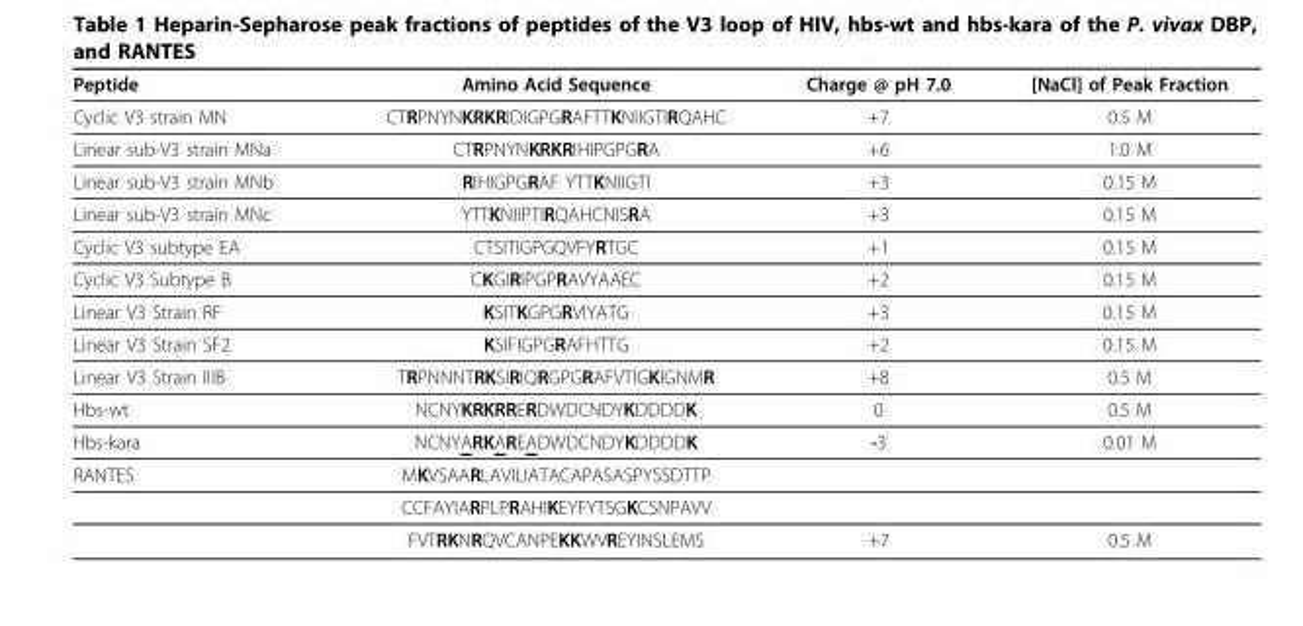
<table><thead><tr><td>Peptide</td><td>Amino Acid Sequence</td><td>Charge @ pH 7.0</td><td>[NaCl] of Peak Fraction</td></tr></thead><tbody><tr><td>Cyclic V3 strain MN</td><td>CTRPNYNKRKRIDIGPGRAFTTKNIIGTIRQAHC</td><td>+7</td><td>0.5 M</td></tr><tr><td>Linear sub-V3 strain MNa</td><td>CTRPNYNKRKRIHIPGPGRA</td><td>+6</td><td>1.0 M</td></tr><tr><td>Linear sub-V3 strain MNb</td><td>RIHIGPGRAF YTTKNIIGTI</td><td>+3</td><td>0.15 M</td></tr><tr><td>Linear sub-V3 strain MNc</td><td>YTTKNIIPTIRQAHCNISRA</td><td>+3</td><td>0.15 M</td></tr><tr><td>Cyclic V3 subtype EA</td><td>CTSITIGPGQVFYRTGC</td><td>+1</td><td>0.15 M</td></tr><tr><td>Cyclic V3 Subtype B</td><td>CKGIRIPGPRAVYAAEC</td><td>+2</td><td>0.15 M</td></tr><tr><td>Linear V3 Strain RF</td><td>KSITKGPGRVIYATG</td><td>+3</td><td>0.15 M</td></tr><tr><td>Linear V3 Strain SF2</td><td>KSIFIGPGRAFHTTG</td><td>+2</td><td>0.15 M</td></tr><tr><td>Linear V3 Strain IIIB</td><td>TRPNNNTRKSIRIQRGPGRAFVTIGKIGNMR</td><td>+8</td><td>0.5 M</td></tr><tr><td>Hbs-wt</td><td>NCNYKRKRRERDWDCNDYKDDDDK</td><td>0</td><td>0.5 M</td></tr><tr><td>Hbs-kara</td><td>NCNYARKAREADWDCNDYKDDDDK</td><td>-3</td><td>0.01 M</td></tr><tr><td rowspan="3">RANTES</td><td>MKVSAARLAVILIATACAPASASPYSSDTTP</td><td></td><td></td></tr><tr><td>CCFAYIARPLPRAHIKEYFYTSGKCSNPAVV</td><td></td><td></td></tr><tr><td>FVTRKNRQVCANPEKKWVREYINSLEMS</td><td>+7</td><td>0.5 M</td></tr></tbody></table>